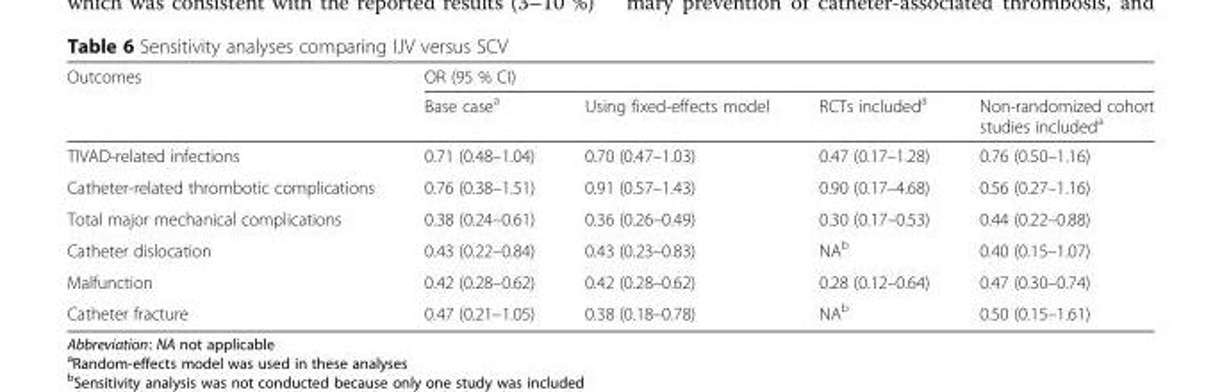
<table><thead><tr><td rowspan="2">Outcomes</td><td colspan="4">OR (95 % CI)</td></tr><tr><td>Base case<sup>a</sup></td><td>Using fixed-effects model</td><td>RCTs included<sup>a</sup></td><td>Non-randomized cohort studies included<sup>a</sup></td></tr></thead><tbody><tr><td>TIVAD-related infections</td><td>0.71 (0.48–1.04)</td><td>0.70 (0.47–1.03)</td><td>0.47 (0.17–1.28)</td><td>0.76 (0.50–1.16)</td></tr><tr><td>Catheter-related thrombotic complications</td><td>0.76 (0.38–1.51)</td><td>0.91 (0.57–1.43)</td><td>0.90 (0.17–4.68)</td><td>0.56 (0.27–1.16)</td></tr><tr><td>Total major mechanical complications</td><td>0.38 (0.24–0.61)</td><td>0.36 (0.26–0.49)</td><td>0.30 (0.17–0.53)</td><td>0.44 (0.22–0.88)</td></tr><tr><td>Catheter dislocation</td><td>0.43 (0.22–0.84)</td><td>0.43 (0.23–0.83)</td><td>NA<sup>b</sup></td><td>0.40 (0.15–1.07)</td></tr><tr><td>Malfunction</td><td>0.42 (0.28–0.62)</td><td>0.42 (0.28–0.62)</td><td>0.28 (0.12–0.64)</td><td>0.47 (0.30–0.74)</td></tr><tr><td>Catheter fracture</td><td>0.47 (0.21–1.05)</td><td>0.38 (0.18–0.78)</td><td>NA<sup>b</sup></td><td>0.50 (0.15–1.61)</td></tr></tbody></table>